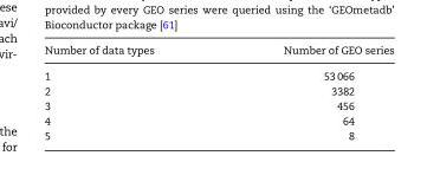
<table><thead><tr><td>Number of data types</td><td>Number of GEO series</td></tr></thead><tbody><tr><td>1</td><td>53 066</td></tr><tr><td>2</td><td>3382</td></tr><tr><td>3</td><td>456</td></tr><tr><td>4</td><td>64</td></tr><tr><td>5</td><td>8</td></tr></tbody></table>